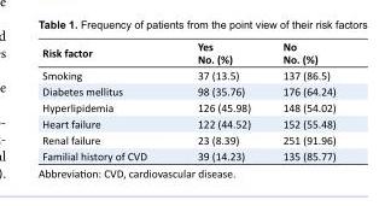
<table><tbody><tr><td>Risk factor</td><td>Yes No. (%)</td><td>No No. (%)</td></tr><tr><td>Smoking</td><td>37 (13.5)</td><td>137 (86.5)</td></tr><tr><td>Diabetes mellitus</td><td>98 (35.76)</td><td>176 (64.24)</td></tr><tr><td>Hyperlipidemia</td><td>126 (45.98)</td><td>148 (54.02)</td></tr><tr><td>Heart failure</td><td>122 (44.52)</td><td>152 (55.48)</td></tr><tr><td>Renal failure</td><td>23 (8.39)</td><td>251 (91.96)</td></tr><tr><td>Familial history of CVD</td><td>39 (14.23)</td><td>135 (85.77)</td></tr></tbody></table>